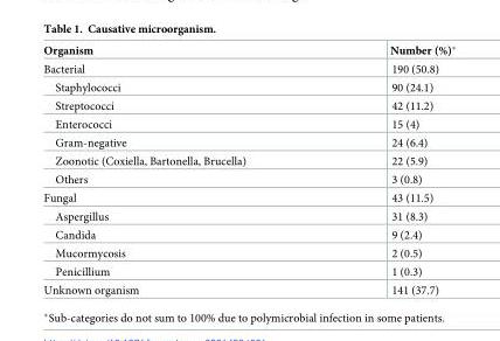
<table><thead><tr><td>Organism</td><td>Number (%)*</td></tr></thead><tbody><tr><td>Bacterial</td><td>190 (50.8)</td></tr><tr><td>Staphylococci</td><td>90 (24.1)</td></tr><tr><td>Streptococci</td><td>42 (11.2)</td></tr><tr><td>Enterococci</td><td>15 (4)</td></tr><tr><td>Gram-negative</td><td>24 (6.4)</td></tr><tr><td>Zoonotic (Coxiella, Bartonella, Brucella)</td><td>22 (5.9)</td></tr><tr><td>Others</td><td>3 (0.8)</td></tr><tr><td>Fungal</td><td>43 (11.5)</td></tr><tr><td>Aspergillus</td><td>31 (8.3)</td></tr><tr><td>Candida</td><td>9 (2.4)</td></tr><tr><td>Mucormycosis</td><td>2 (0.5)</td></tr><tr><td>Penicillium</td><td>1 (0.3)</td></tr><tr><td>Unknown organism</td><td>141 (37.7)</td></tr></tbody></table>